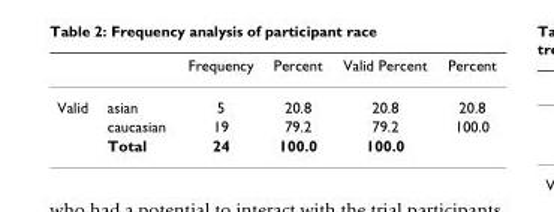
<table><thead><tr><td></td><td></td><td>Frequency</td><td>Percent</td><td>Valid Percent</td><td>Percent</td></tr></thead><tbody><tr><td rowspan="3">Valid</td><td>asian</td><td>5</td><td>20.8</td><td>20.8</td><td>20.8</td></tr><tr><td>caucasian</td><td>19</td><td>79.2</td><td>79.2</td><td>100.0</td></tr><tr><td>Total</td><td>24</td><td>100.0</td><td>100.0</td><td></td></tr></tbody></table>